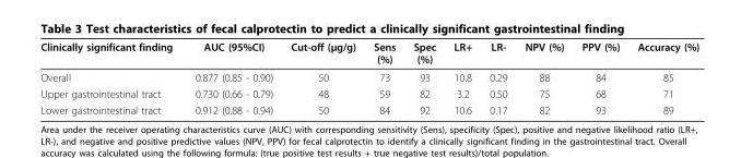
<table><thead><tr><td>Clinically significant finding</td><td>AUC (95%CI)</td><td>Cut-off (μg/g)</td><td>Sens (%)</td><td>Spec (%)</td><td>LR+</td><td>LR-</td><td>NPV (%)</td><td>PPV (%)</td><td>Accuracy (%)</td></tr></thead><tbody><tr><td>Overall</td><td>0.877 (0.85 - 0.90)</td><td>50</td><td>73</td><td>93</td><td>10.8</td><td>0.29</td><td>88</td><td>84</td><td>85</td></tr><tr><td>Upper gastrointestinal tract</td><td>0.730 (0.66 - 0.79)</td><td>48</td><td>59</td><td>82</td><td>3.2</td><td>0.50</td><td>75</td><td>68</td><td>71</td></tr><tr><td>Lower gastrointestinal tract</td><td>0.912 (0.88 - 0.94)</td><td>50</td><td>84</td><td>92</td><td>10.6</td><td>0.17</td><td>82</td><td>93</td><td>89</td></tr></tbody></table>